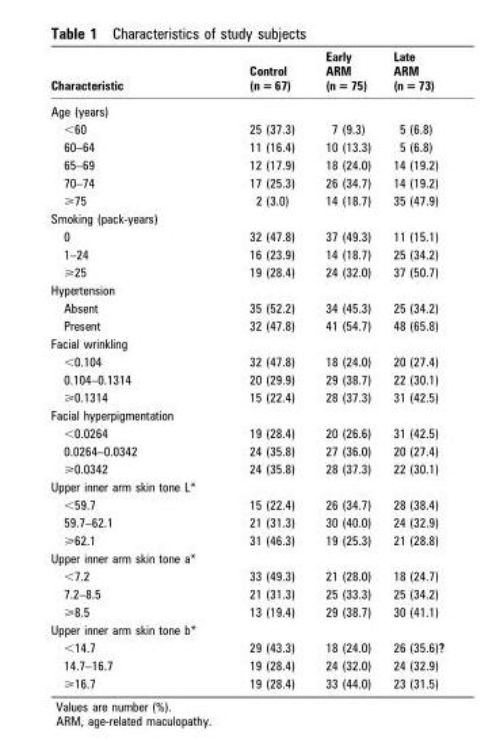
<table><thead><tr><td>Characteristic</td><td>Control (n = 67)</td><td>Early ARM (n = 75)</td><td>Late ARM (n = 73)</td></tr></thead><tbody><tr><td colspan="4">Age (years)</td></tr><tr><td>&lt;60</td><td>25 (37.3)</td><td>7 (9.3)</td><td>5 (6.8)</td></tr><tr><td>60–64</td><td>11 (16.4)</td><td>10 (13.3)</td><td>5 (6.8)</td></tr><tr><td>65–69</td><td>12 (17.9)</td><td>18 (24.0)</td><td>14 (19.2)</td></tr><tr><td>70–74</td><td>17 (25.3)</td><td>26 (34.7)</td><td>14 (19.2)</td></tr><tr><td>&gt;75</td><td>2 (3.0)</td><td>14 (18.7)</td><td>35 (47.9)</td></tr><tr><td colspan="4">Smoking (pack-years)</td></tr><tr><td>0</td><td>32 (47.8)</td><td>37 (49.3)</td><td>11 (15.1)</td></tr><tr><td>1–24</td><td>16 (23.9)</td><td>14 (18.7)</td><td>25 (34.2)</td></tr><tr><td>&gt;25</td><td>19 (28.4)</td><td>24 (32.0)</td><td>37 (50.7)</td></tr><tr><td colspan="4">Hypertension</td></tr><tr><td>Absent</td><td>35 (52.2)</td><td>34 (45.3)</td><td>25 (34.2)</td></tr><tr><td>Present</td><td>32 (47.8)</td><td>41 (54.7)</td><td>48 (65.8)</td></tr><tr><td colspan="4">Facial wrinkling</td></tr><tr><td>&lt;0.104</td><td>32 (47.8)</td><td>18 (24.0)</td><td>20 (27.4)</td></tr><tr><td>0.104–0.1314</td><td>20 (29.9)</td><td>29 (38.7)</td><td>22 (30.1)</td></tr><tr><td>&gt;0.1314</td><td>15 (22.4)</td><td>28 (37.3)</td><td>31 (42.5)</td></tr><tr><td colspan="4">Facial hyperpigmentation</td></tr><tr><td>&lt;0.0264</td><td>19 (28.4)</td><td>20 (26.6)</td><td>31 (42.5)</td></tr><tr><td>0.0264–0.0342</td><td>24 (35.8)</td><td>27 (36.0)</td><td>20 (27.4)</td></tr><tr><td>&gt;0.0342</td><td>24 (35.8)</td><td>28 (37.3)</td><td>22 (30.1)</td></tr><tr><td colspan="4">Upper inner arm skin tone L*</td></tr><tr><td>&lt;59.7</td><td>15 (22.4)</td><td>26 (34.7)</td><td>28 (38.4)</td></tr><tr><td>59.7–62.1</td><td>21 (31.3)</td><td>30 (40.0)</td><td>24 (32.9)</td></tr><tr><td>&gt;62.1</td><td>31 (46.3)</td><td>19 (25.3)</td><td>21 (28.8)</td></tr><tr><td colspan="4">Upper inner arm skin tone a*</td></tr><tr><td>&lt;7.2</td><td>33 (49.3)</td><td>21 (28.0)</td><td>18 (24.7)</td></tr><tr><td>7.2–8.5</td><td>21 (31.3)</td><td>25 (33.3)</td><td>25 (34.2)</td></tr><tr><td>&gt;8.5</td><td>13 (19.4)</td><td>29 (38.7)</td><td>30 (41.1)</td></tr><tr><td colspan="4">Upper inner arm skin tone b*</td></tr><tr><td>&lt;14.7</td><td>29 (43.3)</td><td>18 (24.0)</td><td>26 (35.6)?</td></tr><tr><td>14.7–16.7</td><td>19 (28.4)</td><td>24 (32.0)</td><td>24 (32.9)</td></tr><tr><td>&gt;16.7</td><td>19 (28.4)</td><td>33 (44.0)</td><td>23 (31.5)</td></tr></tbody></table>